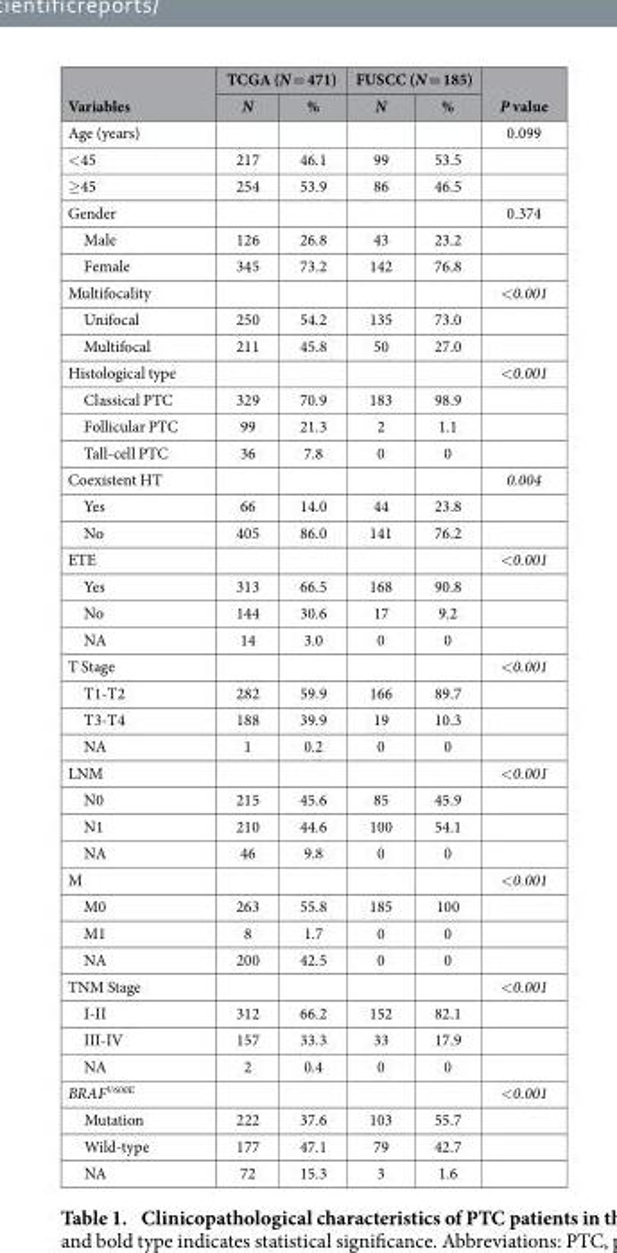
<table><thead><tr><td rowspan="2">Variables</td><td colspan="2">TCGA (N = 471)</td><td colspan="2">FUSCC (N = 185)</td><td rowspan="2">P value</td></tr><tr><td>N</td><td>%</td><td>N</td><td>%</td></tr></thead><tbody><tr><td>Age (years)</td><td></td><td></td><td></td><td></td><td>0.099</td></tr><tr><td>&lt; 45</td><td>217</td><td>46.1</td><td>99</td><td>53.5</td><td></td></tr><tr><td>≥ 45</td><td>254</td><td>53.9</td><td>86</td><td>46.5</td><td></td></tr><tr><td>Gender</td><td></td><td></td><td></td><td></td><td>0.374</td></tr><tr><td>Male</td><td>126</td><td>26.8</td><td>43</td><td>23.2</td><td></td></tr><tr><td>Female</td><td>345</td><td>73.2</td><td>142</td><td>76.8</td><td></td></tr><tr><td>Multifocality</td><td></td><td></td><td></td><td></td><td>&lt; 0.001</td></tr><tr><td>Unifocal</td><td>250</td><td>54.2</td><td>135</td><td>73.0</td><td></td></tr><tr><td>Multifocal</td><td>211</td><td>45.8</td><td>50</td><td>27.0</td><td></td></tr><tr><td>Histological type</td><td></td><td></td><td></td><td></td><td>&lt; 0.001</td></tr><tr><td>Classical PTC</td><td>329</td><td>70.9</td><td>183</td><td>98.9</td><td></td></tr><tr><td>Follicular PTC</td><td>99</td><td>21.3</td><td>2</td><td>1.1</td><td></td></tr><tr><td>Tall-cell PTC</td><td>36</td><td>7.8</td><td>0</td><td>0</td><td></td></tr><tr><td>Coexistent HT</td><td></td><td></td><td></td><td></td><td>0.004</td></tr><tr><td>Yes</td><td>66</td><td>14.0</td><td>44</td><td>23.8</td><td></td></tr><tr><td>No</td><td>405</td><td>86.0</td><td>141</td><td>76.2</td><td></td></tr><tr><td>ETE</td><td></td><td></td><td></td><td></td><td>&lt; 0.001</td></tr><tr><td>Yes</td><td>313</td><td>66.5</td><td>168</td><td>90.8</td><td></td></tr><tr><td>No</td><td>144</td><td>30.6</td><td>17</td><td>9.2</td><td></td></tr><tr><td>NA</td><td>14</td><td>3.0</td><td>0</td><td>0</td><td></td></tr><tr><td>T Stage</td><td></td><td></td><td></td><td></td><td>&lt; 0.001</td></tr><tr><td>T1-T2</td><td>282</td><td>59.9</td><td>166</td><td>89.7</td><td></td></tr><tr><td>T3-T4</td><td>188</td><td>39.9</td><td>19</td><td>10.3</td><td></td></tr><tr><td>NA</td><td>1</td><td>0.2</td><td>0</td><td>0</td><td></td></tr><tr><td>LNM</td><td></td><td></td><td></td><td></td><td>&lt; 0.001</td></tr><tr><td>N0</td><td>215</td><td>45.6</td><td>85</td><td>45.9</td><td></td></tr><tr><td>N1</td><td>210</td><td>44.6</td><td>100</td><td>54.1</td><td></td></tr><tr><td>NA</td><td>46</td><td>9.8</td><td>0</td><td>0</td><td></td></tr><tr><td>M</td><td></td><td></td><td></td><td></td><td>&lt; 0.001</td></tr><tr><td>M0</td><td>263</td><td>55.8</td><td>185</td><td>100</td><td></td></tr><tr><td>M1</td><td>8</td><td>1.7</td><td>0</td><td>0</td><td></td></tr><tr><td>NA</td><td>200</td><td>42.5</td><td>0</td><td>0</td><td></td></tr><tr><td>TNM Stage</td><td></td><td></td><td></td><td></td><td>&lt; 0.001</td></tr><tr><td>I-II</td><td>312</td><td>66.2</td><td>152</td><td>82.1</td><td></td></tr><tr><td>III-IV</td><td>157</td><td>33.3</td><td>33</td><td>17.9</td><td></td></tr><tr><td>NA</td><td>2</td><td>0.4</td><td>0</td><td>0</td><td></td></tr><tr><td>BRAF<sup>V600E</sup></td><td></td><td></td><td></td><td></td><td>&lt; 0.001</td></tr><tr><td>Mutation</td><td>222</td><td>37.6</td><td>103</td><td>55.7</td><td></td></tr><tr><td>Wild-type</td><td>177</td><td>47.1</td><td>79</td><td>42.7</td><td></td></tr><tr><td>NA</td><td>72</td><td>15.3</td><td>3</td><td>1.6</td><td></td></tr></tbody></table>